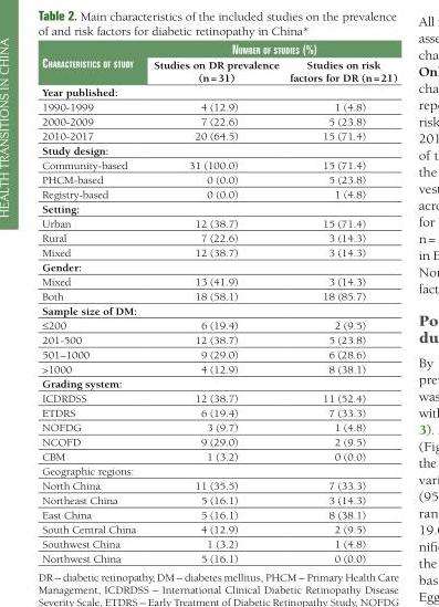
<table><thead><tr><td rowspan="2">chaRacteRistics of study</td><td colspan="2">numbeR of studies (%)</td></tr><tr><td>Studies on DR prevalence (n = 31)</td><td>Studies on risk factors for DR (n = 21)</td></tr></thead><tbody><tr><td colspan="3">Year published:</td></tr><tr><td>1990-1999</td><td>4 (12.9)</td><td>1 (4.8)</td></tr><tr><td>2000-2009</td><td>7 (22.6)</td><td>5 (23.8)</td></tr><tr><td>2010-2017</td><td>20 (64.5)</td><td>15 (71.4)</td></tr><tr><td colspan="3">Study design:</td></tr><tr><td>Community-based</td><td>31 (100.0)</td><td>15 (71.4)</td></tr><tr><td>PHCM-based</td><td>0 (0.0)</td><td>5 (23.8)</td></tr><tr><td>Registry-based</td><td>0 (0.0)</td><td>1 (4.8)</td></tr><tr><td colspan="3">Setting:</td></tr><tr><td>Urban</td><td>12 (38.7)</td><td>15 (71.4)</td></tr><tr><td>Rural</td><td>7 (22.6)</td><td>3 (14.3)</td></tr><tr><td>Mixed</td><td>12 (38.7)</td><td>3 (14.3)</td></tr><tr><td colspan="3">Gender:</td></tr><tr><td>Mixed</td><td>13 (41.9)</td><td>3 (14.3)</td></tr><tr><td>Both</td><td>18 (58.1)</td><td>18 (85.7)</td></tr><tr><td colspan="3">Sample size of DM:</td></tr><tr><td>≤200</td><td>6 (19.4)</td><td>2 (9.5)</td></tr><tr><td>201-500</td><td>12 (38.7)</td><td>5 (23.8)</td></tr><tr><td>501–1000</td><td>9 (29.0)</td><td>6 (28.6)</td></tr><tr><td>&gt;1000</td><td>4 (12.9)</td><td>8 (38.1)</td></tr><tr><td colspan="3">Grading system:</td></tr><tr><td>ICDRDSS</td><td>12 (38.7)</td><td>11 (52.4)</td></tr><tr><td>ETDRS</td><td>6 (19.4)</td><td>7 (33.3)</td></tr><tr><td>NOFDG</td><td>3 (9.7)</td><td>1 (4.8)</td></tr><tr><td>NCOFD</td><td>9 (29.0)</td><td>2 (9.5)</td></tr><tr><td>CBM</td><td>1 (3.2)</td><td>0 (0.0)</td></tr><tr><td colspan="3">Geographic regions:</td></tr><tr><td>North China</td><td>11 (35.5)</td><td>7 (33.3)</td></tr><tr><td>Northeast China</td><td>5 (16.1)</td><td>3 (14.3)</td></tr><tr><td>East China</td><td>5 (16.1)</td><td>8 (38.1)</td></tr><tr><td>South Central China</td><td>4 (12.9)</td><td>2 (9.5)</td></tr><tr><td>Southwest China</td><td>1 (3.2)</td><td>1 (4.8)</td></tr><tr><td>Northwest China</td><td>5 (16.1)</td><td>0 (0.0)</td></tr></tbody></table>